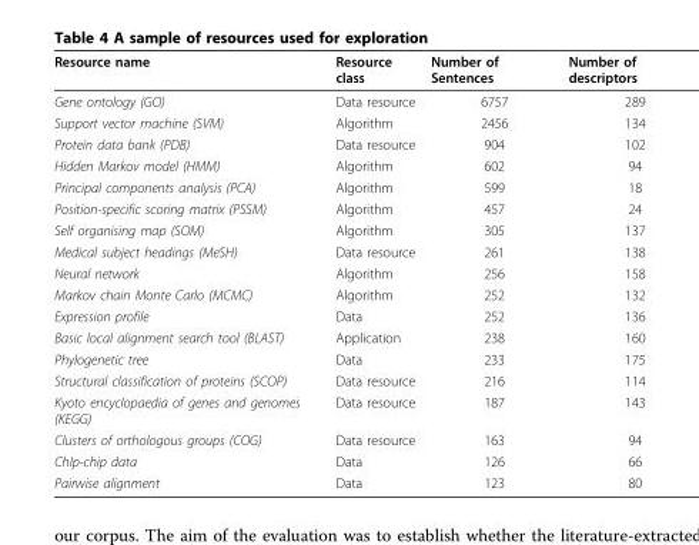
<table><thead><tr><td>Resource name</td><td>Resource class</td><td>Number of Sentences</td><td>Number of descriptors</td></tr></thead><tbody><tr><td>Gene ontology (GO)</td><td>Data resource</td><td>6757</td><td>289</td></tr><tr><td>Support vector machine (SVM)</td><td>Algorithm</td><td>2456</td><td>134</td></tr><tr><td>Protein data bank (PDB)</td><td>Data resource</td><td>904</td><td>102</td></tr><tr><td>Hidden Markov model (HMM)</td><td>Algorithm</td><td>602</td><td>94</td></tr><tr><td>Principal components analysis (PCA)</td><td>Algorithm</td><td>599</td><td>18</td></tr><tr><td>Position-specific scoring matrix (PSSM)</td><td>Algorithm</td><td>457</td><td>24</td></tr><tr><td>Self organising map (SOM)</td><td>Algorithm</td><td>305</td><td>137</td></tr><tr><td>Medical subject headings (MeSH)</td><td>Data resource</td><td>261</td><td>138</td></tr><tr><td>Neural network</td><td>Algorithm</td><td>256</td><td>158</td></tr><tr><td>Markov chain Monte Carlo (MCMC)</td><td>Algorithm</td><td>252</td><td>132</td></tr><tr><td>Expression profile</td><td>Data</td><td>252</td><td>136</td></tr><tr><td>Basic local alignment search tool (BLAST)</td><td>Application</td><td>238</td><td>160</td></tr><tr><td>Phylogenetic tree</td><td>Data</td><td>233</td><td>175</td></tr><tr><td>Structural classification of proteins (SCOP)</td><td>Data resource</td><td>216</td><td>114</td></tr><tr><td>Kyoto encyclopaedia of genes and genomes (KEGG)</td><td>Data resource</td><td>187</td><td>143</td></tr><tr><td>Clusters of orthologous groups (COG)</td><td>Data resource</td><td>163</td><td>94</td></tr><tr><td>ChIp-chip data</td><td>Data</td><td>126</td><td>66</td></tr><tr><td>Pairwise alignment</td><td>Data</td><td>123</td><td>80</td></tr></tbody></table>